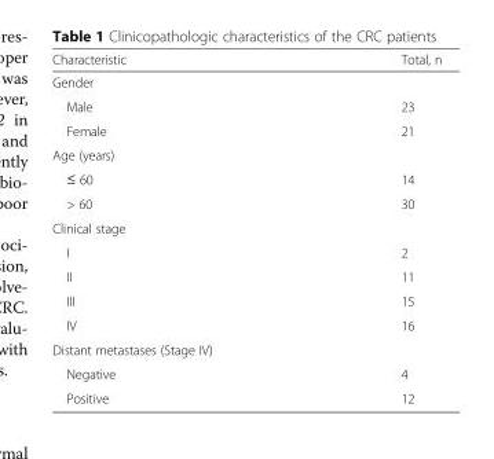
<table><thead><tr><td>Characteristic</td><td>Total, n</td></tr></thead><tbody><tr><td colspan="2">Gender</td></tr><tr><td>Male</td><td>23</td></tr><tr><td>Female</td><td>21</td></tr><tr><td colspan="2">Age (years)</td></tr><tr><td>≤ 60</td><td>14</td></tr><tr><td>&gt; 60</td><td>30</td></tr><tr><td colspan="2">Clinical stage</td></tr><tr><td>I</td><td>2</td></tr><tr><td>II</td><td>11</td></tr><tr><td>III</td><td>15</td></tr><tr><td>IV</td><td>16</td></tr><tr><td colspan="2">Distant metastases (Stage IV)</td></tr><tr><td>Negative</td><td>4</td></tr><tr><td>Positive</td><td>12</td></tr></tbody></table>